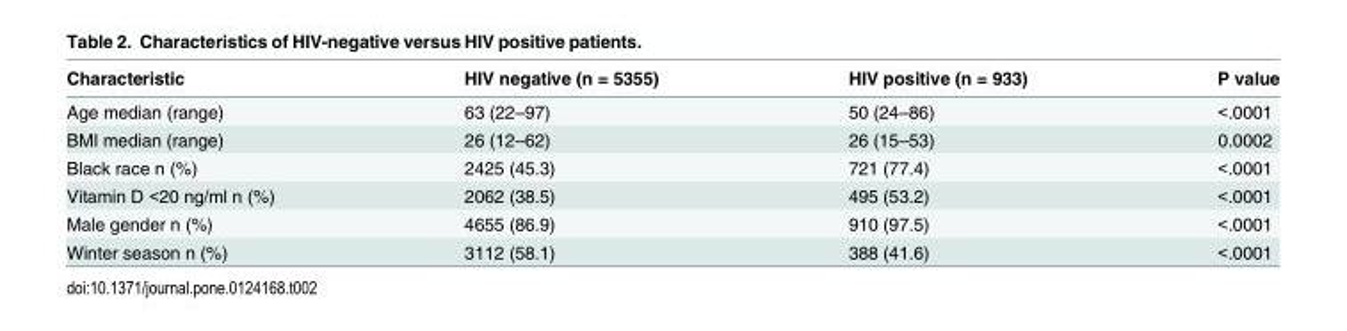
<table><thead><tr><td>Characteristic</td><td>HIV negative (n = 5355)</td><td>HIV positive (n = 933)</td><td>P value</td></tr></thead><tbody><tr><td>Age median (range)</td><td>63 (22–97)</td><td>50 (24–86)</td><td>&lt;.0001</td></tr><tr><td>BMI median (range)</td><td>26 (12–62)</td><td>26 (15–53)</td><td>0.0002</td></tr><tr><td>Black race n (%)</td><td>2425 (45.3)</td><td>721 (77.4)</td><td>&lt;.0001</td></tr><tr><td>Vitamin D &lt;20 ng/ml n (%)</td><td>2062 (38.5)</td><td>495 (53.2)</td><td>&lt;.0001</td></tr><tr><td>Male gender n (%)</td><td>4655 (86.9)</td><td>910 (97.5)</td><td>&lt;.0001</td></tr><tr><td>Winter season n (%)</td><td>3112 (58.1)</td><td>388 (41.6)</td><td>&lt;.0001</td></tr></tbody></table>